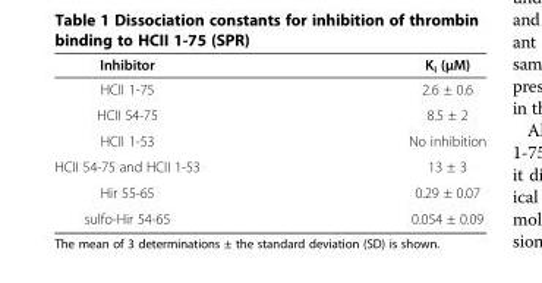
<table><thead><tr><td>Inhibitor</td><td>K<sub>i</sub> (μM)</td></tr></thead><tbody><tr><td>HCII 1-75</td><td>2.6 ± 0.6</td></tr><tr><td>HCII 54-75</td><td>8.5 ± 2</td></tr><tr><td>HCII 1-53</td><td>No inhibition</td></tr><tr><td>HCII 54-75 and HCII 1-53</td><td>13 ± 3</td></tr><tr><td>Hir 55-65</td><td>0.29 ± 0.07</td></tr><tr><td>sulfo-Hir 54-65</td><td>0.054 ± 0.09</td></tr></tbody></table>